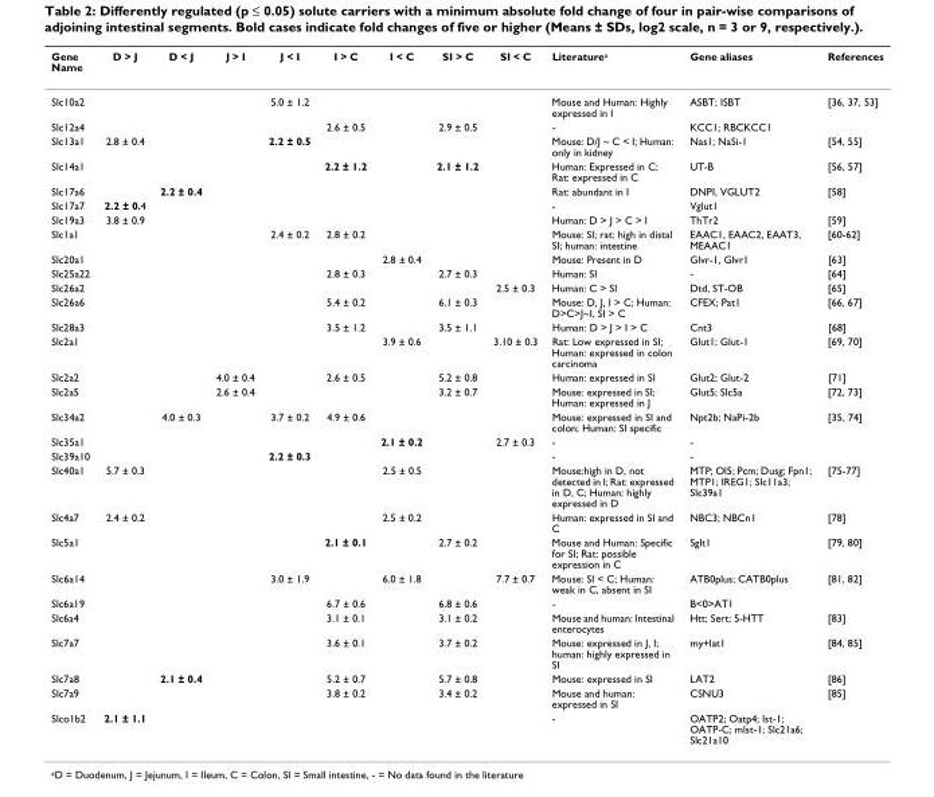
<table><thead><tr><td>Gene Name</td><td>D &gt; J</td><td>D &lt; J</td><td>J &gt; I</td><td>J &lt; I</td><td>I &gt; C</td><td>I &lt; C</td><td>SI &gt; C</td><td>SI &lt; C</td><td>Literature<sup>a</sup></td><td>Gene aliases</td><td>References</td></tr></thead><tbody><tr><td>Slc10a2</td><td></td><td></td><td></td><td>5.0 ± 1.2</td><td></td><td></td><td></td><td></td><td>Mouse and Human: Highly expressed in I</td><td>ASBT; ISBT</td><td>[36, 37, 53]</td></tr><tr><td>Slc12a4</td><td></td><td></td><td></td><td></td><td>2.6 ± 0.5</td><td></td><td>2.9 ± 0.5</td><td></td><td>-</td><td>KCC1; RBCKCC1</td><td></td></tr><tr><td>Slc13a1</td><td>2.8 ± 0.4</td><td></td><td></td><td>2.2 ± 0.5</td><td></td><td></td><td></td><td></td><td>Mouse: D/J ~ C &lt; I; Human: only in kidney</td><td>Nas1; NaSi-1</td><td>[54, 55]</td></tr><tr><td>Slc14a1</td><td></td><td></td><td></td><td></td><td>2.2 ± 1.2</td><td></td><td>2.1 ± 1.2</td><td></td><td>Human: Expressed in C; Rat: expressed in C</td><td>UT-B</td><td>[56, 57]</td></tr><tr><td>Slc17a6</td><td></td><td>2.2 ± 0.4</td><td></td><td></td><td></td><td></td><td></td><td></td><td>Rat: abundant in I</td><td>DNPI, VGLUT2</td><td>[58]</td></tr><tr><td>Slc17a7</td><td>2.2 ± 0.4</td><td></td><td></td><td></td><td></td><td></td><td></td><td></td><td>-</td><td>Vglut1</td><td></td></tr><tr><td>Slc19a3</td><td>3.8 ± 0.9</td><td></td><td></td><td></td><td></td><td></td><td></td><td></td><td>Human: D &gt; J &gt; C &gt; I</td><td>ThTr2</td><td>[59]</td></tr><tr><td>Slc1a1</td><td></td><td></td><td></td><td>2.4 ± 0.2</td><td>2.8 ± 0.2</td><td></td><td></td><td></td><td>Mouse: SI; rat: high in distal SI; human: intestine</td><td>EAAC1, EAAC2, EAAT3, MEAAC1</td><td>[60-62]</td></tr><tr><td>Slc20a1</td><td></td><td></td><td></td><td></td><td></td><td>2.8 ± 0.4</td><td></td><td></td><td>Mouse: Present in D</td><td>Glvr-1, Glvr1</td><td>[63]</td></tr><tr><td>Slc25a22</td><td></td><td></td><td></td><td></td><td>2.8 ± 0.3</td><td></td><td>2.7 ± 0.3</td><td></td><td>Human: SI</td><td>-</td><td>[64]</td></tr><tr><td>Slc26a2</td><td></td><td></td><td></td><td></td><td></td><td></td><td></td><td>2.5 ± 0.3</td><td>Human: C &gt; SI</td><td>Dtd, ST-OB</td><td>[65]</td></tr><tr><td>Slc26a6</td><td></td><td></td><td></td><td></td><td>5.4 ± 0.2</td><td></td><td>6.1 ± 0.3</td><td></td><td>Mouse: D, J, I &gt; C; Human: D&gt;C&gt;J~I, SI &gt; C</td><td>CFEX; Pat1</td><td>[66, 67]</td></tr><tr><td>Slc28a3</td><td></td><td></td><td></td><td></td><td>3.5 ± 1.2</td><td></td><td>3.5 ± 1.1</td><td></td><td>Human: D &gt; J &gt; I &gt; C</td><td>Cnt3</td><td>[68]</td></tr><tr><td>Slc2a1</td><td></td><td></td><td></td><td></td><td></td><td>3.9 ± 0.6</td><td></td><td>3.10 ± 0.3</td><td>Rat: Low expressed in SI; Human: expressed in colon carcinoma</td><td>Glut1; Glut-1</td><td>[69, 70]</td></tr><tr><td>Slc2a2</td><td></td><td></td><td>4.0 ± 0.4</td><td></td><td>2.6 ± 0.5</td><td></td><td>5.2 ± 0.8</td><td></td><td>Human: expressed in SI</td><td>Glut2; Glut-2</td><td>[71]</td></tr><tr><td>Slc2a5</td><td></td><td></td><td>2.6 ± 0.4</td><td></td><td></td><td></td><td>3.2 ± 0.7</td><td></td><td>Mouse: expressed in SI; Human: expressed in J</td><td>Glut5; Slc5a</td><td>[72, 73]</td></tr><tr><td>Slc34a2</td><td></td><td>4.0 ± 0.3</td><td></td><td>3.7 ± 0.2</td><td>4.9 ± 0.6</td><td></td><td></td><td></td><td>Mouse: expressed in SI and colon; Human: SI specific</td><td>Npt2b; NaPi-2b</td><td>[35, 74]</td></tr><tr><td>Slc35a1</td><td></td><td></td><td></td><td></td><td></td><td>2.1 ± 0.2</td><td></td><td>2.7 ± 0.3</td><td>-</td><td>-</td><td></td></tr><tr><td>Slc39a10</td><td></td><td></td><td></td><td>2.2 ± 0.3</td><td></td><td></td><td></td><td></td><td>-</td><td>-</td><td></td></tr><tr><td>Slc40a1</td><td>5.7 ± 0.3</td><td></td><td></td><td></td><td></td><td>2.5 ± 0.5</td><td></td><td></td><td>Mouse:high in D, not detected in I; Rat: expressed in D, C; Human: highly expressed in D</td><td>MTP; Ol5; Pcm; Dusg; Fpn1; MTP1; IREG1; Slc11a3; Slc39a1</td><td>[75-77]</td></tr><tr><td>Slc4a7</td><td>2.4 ± 0.2</td><td></td><td></td><td></td><td></td><td>2.5 ± 0.2</td><td></td><td></td><td>Human: expressed in SI and C</td><td>NBC3; NBCn1</td><td>[78]</td></tr><tr><td>Slc5a1</td><td></td><td></td><td></td><td></td><td>2.1 ± 0.1</td><td></td><td>2.7 ± 0.2</td><td></td><td>Mouse and Human: Specific for SI; Rat: possible expression in C</td><td>Sglt1</td><td>[79, 80]</td></tr><tr><td>Slc6a14</td><td></td><td></td><td></td><td>3.0 ± 1.9</td><td></td><td>6.0 ± 1.8</td><td></td><td>7.7 ± 0.7</td><td>Mouse: SI &lt; C; Human: weak in C, absent in SI</td><td>ATB0plus; CATB0plus</td><td>[81, 82]</td></tr><tr><td>Slc6a19</td><td></td><td></td><td></td><td></td><td>6.7 ± 0.6</td><td></td><td>6.8 ± 0.6</td><td></td><td>-</td><td>B&lt;0&gt;AT1</td><td></td></tr><tr><td>Slc6a4</td><td></td><td></td><td></td><td></td><td>3.1 ± 0.1</td><td></td><td>3.1 ± 0.2</td><td></td><td>Mouse and human: Intestinal enterocytes</td><td>Htt; Sert; 5-HTT</td><td>[83]</td></tr><tr><td>Slc7a7</td><td></td><td></td><td></td><td></td><td>3.6 ± 0.1</td><td></td><td>3.7 ± 0.2</td><td></td><td>Mouse: expressed in J, I; human: highly expressed in SI</td><td>my+lat1</td><td>[84, 85]</td></tr><tr><td>Slc7a8</td><td></td><td>2.1 ± 0.4</td><td></td><td></td><td>5.2 ± 0.7</td><td></td><td>5.7 ± 0.8</td><td></td><td>Mouse: expressed in SI</td><td>LAT2</td><td>[86]</td></tr><tr><td>Slc7a9</td><td></td><td></td><td></td><td></td><td>3.8 ± 0.2</td><td></td><td>3.4 ± 0.2</td><td></td><td>Mouse and human: expressed in SI</td><td>CSNU3</td><td>[85]</td></tr><tr><td>Slco1b2</td><td>2.1 ± 1.1</td><td></td><td></td><td></td><td></td><td></td><td></td><td></td><td>-</td><td>OATP2; Oatp4; lst-1; OATP-C; mlst-1; Slc21a6; Slc21a10</td><td></td></tr></tbody></table>